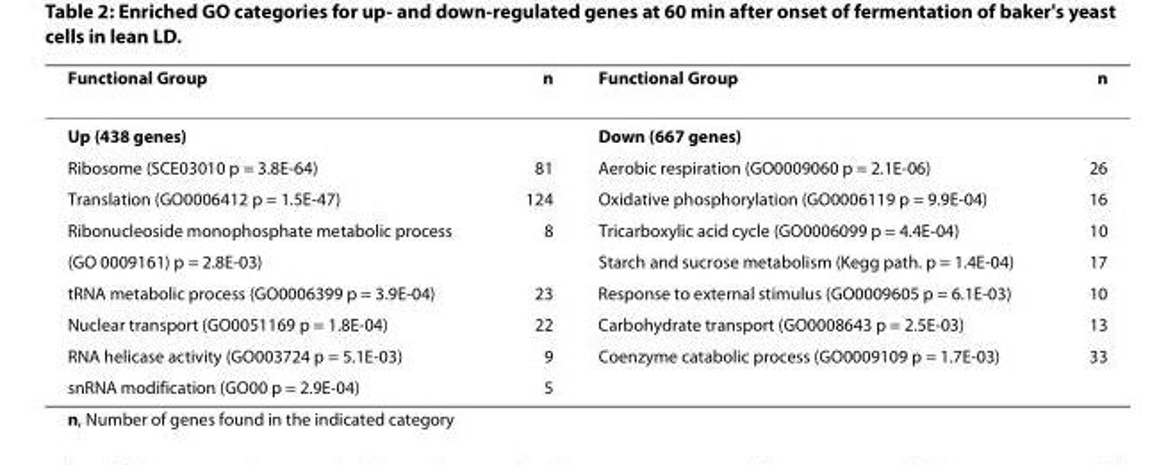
<table><thead><tr><td>Functional Group</td><td>n</td><td>Functional Group</td><td>n</td></tr></thead><tbody><tr><td>Up (438 genes)</td><td></td><td>Down (667 genes)</td><td></td></tr><tr><td>Ribosome (SCE03010 p = 3.8E-64)</td><td>81</td><td>Aerobic respiration (GO0009060 p = 2.1E-06)</td><td>26</td></tr><tr><td>Translation (GO0006412 p = 1.5E-47)</td><td>124</td><td>Oxidative phosphorylation (GO0006119 p = 9.9E-04)</td><td>16</td></tr><tr><td>Ribonucleoside monophosphate metabolic process</td><td>8</td><td>Tricarboxylic acid cycle (GO0006099 p = 4.4E-04)</td><td>10</td></tr><tr><td>(GO 0009161) p = 2.8E-03)</td><td></td><td>Starch and sucrose metabolism (Kegg path. p = 1.4E-04)</td><td>17</td></tr><tr><td>tRNA metabolic process (GO0006399 p = 3.9E-04)</td><td>23</td><td>Response to external stimulus (GO0009605 p = 6.1E-03)</td><td>10</td></tr><tr><td>Nuclear transport (GO0051169 p = 1.8E-04)</td><td>22</td><td>Carbohydrate transport (GO0008643 p = 2.5E-03)</td><td>13</td></tr><tr><td>RNA helicase activity (GO003724 p = 5.1E-03)</td><td>9</td><td>Coenzyme catabolic process (GO0009109 p = 1.7E-03)</td><td>33</td></tr><tr><td>snRNA modification (GO00 p = 2.9E-04)</td><td>5</td><td></td><td></td></tr></tbody></table>